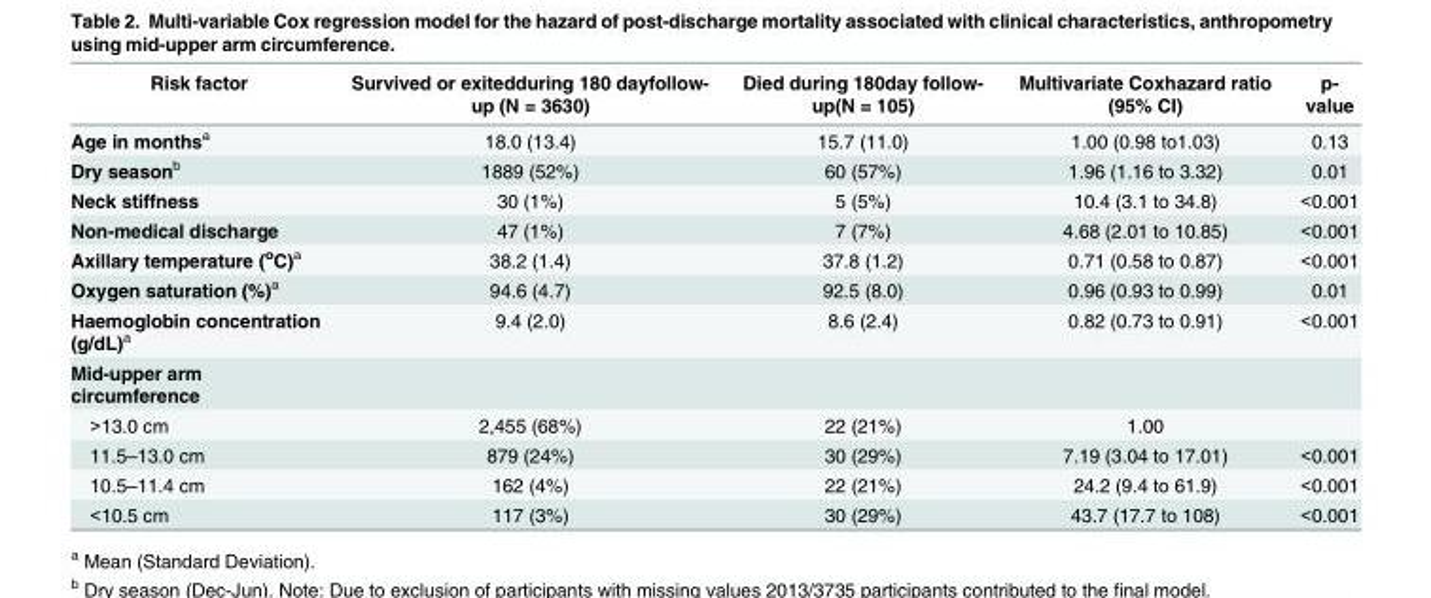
<table><thead><tr><td>Risk factor</td><td>Survived or exitedduring 180 dayfollow- up (N = 3630)</td><td>Died during 180day follow- up(N = 105)</td><td>Multivariate Coxhazard ratio (95% CI)</td><td>p- value</td></tr></thead><tbody><tr><td>Age in months<sup>a</sup></td><td>18.0 (13.4)</td><td>15.7 (11.0)</td><td>1.00 (0.98 to1.03)</td><td>0.13</td></tr><tr><td>Dry season<sup>b</sup></td><td>1889 (52%)</td><td>60 (57%)</td><td>1.96 (1.16 to 3.32)</td><td>0.01</td></tr><tr><td>Neck stiffness</td><td>30 (1%)</td><td>5 (5%)</td><td>10.4 (3.1 to 34.8)</td><td>&lt;0.001</td></tr><tr><td>Non-medical discharge</td><td>47 (1%)</td><td>7 (7%)</td><td>4.68 (2.01 to 10.85)</td><td>&lt;0.001</td></tr><tr><td>Axillary temperature (<sup>o</sup>C)<sup>a</sup></td><td>38.2 (1.4)</td><td>37.8 (1.2)</td><td>0.71 (0.58 to 0.87)</td><td>&lt;0.001</td></tr><tr><td>Oxygen saturation (%)<sup>a</sup></td><td>94.6 (4.7)</td><td>92.5 (8.0)</td><td>0.96 (0.93 to 0.99)</td><td>0.01</td></tr><tr><td>Haemoglobin concentration (g/dL)<sup>a</sup></td><td>9.4 (2.0)</td><td>8.6 (2.4)</td><td>0.82 (0.73 to 0.91)</td><td>&lt;0.001</td></tr><tr><td colspan="5">Mid-upper arm circumference</td></tr><tr><td>&gt;13.0 cm</td><td>2,455 (68%)</td><td>22 (21%)</td><td>1.00</td><td></td></tr><tr><td>11.5–13.0 cm</td><td>879 (24%)</td><td>30 (29%)</td><td>7.19 (3.04 to 17.01)</td><td>&lt;0.001</td></tr><tr><td>10.5–11.4 cm</td><td>162 (4%)</td><td>22 (21%)</td><td>24.2 (9.4 to 61.9)</td><td>&lt;0.001</td></tr><tr><td>&lt;10.5 cm</td><td>117 (3%)</td><td>30 (29%)</td><td>43.7 (17.7 to 108)</td><td>&lt;0.001</td></tr></tbody></table>